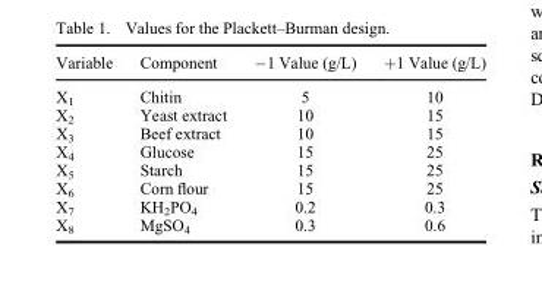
<table><thead><tr><td>Variable</td><td>Component</td><td>−1 Value (g/L)</td><td>+1 Value (g/L)</td></tr></thead><tbody><tr><td>X<sub>1</sub></td><td>Chitin</td><td>5</td><td>10</td></tr><tr><td>X<sub>2</sub></td><td>Yeast extract</td><td>10</td><td>15</td></tr><tr><td>X<sub>3</sub></td><td>Beef extract</td><td>10</td><td>15</td></tr><tr><td>X<sub>4</sub></td><td>Glucose</td><td>15</td><td>25</td></tr><tr><td>X<sub>5</sub></td><td>Starch</td><td>15</td><td>25</td></tr><tr><td>X<sub>6</sub></td><td>Corn flour</td><td>15</td><td>25</td></tr><tr><td>X<sub>7</sub></td><td>KH<sub>2</sub>PO<sub>4</sub></td><td>0.2</td><td>0.3</td></tr><tr><td>X<sub>8</sub></td><td>MgSO<sub>4</sub></td><td>0.3</td><td>0.6</td></tr></tbody></table>